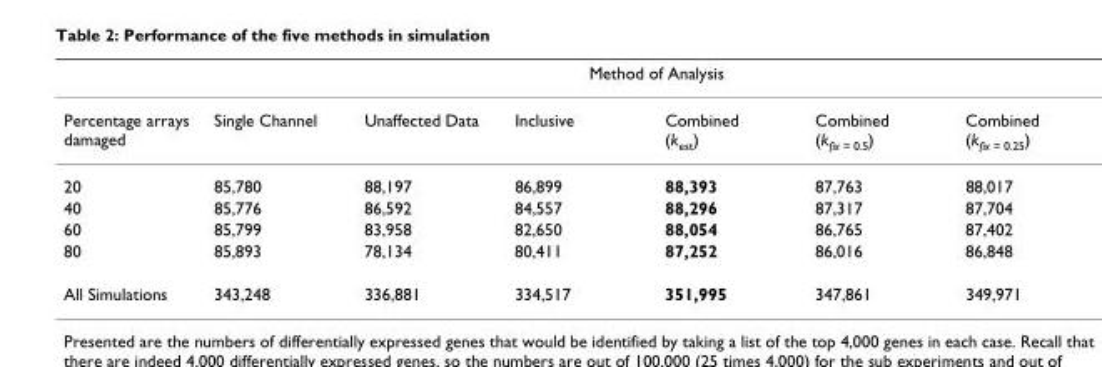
<table><thead><tr><td rowspan="2">Percentage arrays damaged</td><td colspan="6">Method of Analysis</td></tr><tr><td>Single Channel</td><td>Unaffected Data</td><td>Inclusive</td><td>Combined (k<sub>est</sub>)</td><td>Combined (k<sub>fix = 0.5</sub>)</td><td>Combined (k<sub>fix = 0.25</sub>)</td></tr></thead><tbody><tr><td>20</td><td>85,780</td><td>88,197</td><td>86,899</td><td>88,393</td><td>87,763</td><td>88,017</td></tr><tr><td>40</td><td>85,776</td><td>86,592</td><td>84,557</td><td>88,296</td><td>87,317</td><td>87,704</td></tr><tr><td>60</td><td>85,799</td><td>83,958</td><td>82,650</td><td>88,054</td><td>86,765</td><td>87,402</td></tr><tr><td>80</td><td>85,893</td><td>78,134</td><td>80,411</td><td>87,252</td><td>86,016</td><td>86,848</td></tr><tr><td>All Simulations</td><td>343,248</td><td>336,881</td><td>334,517</td><td>351,995</td><td>347,861</td><td>349,971</td></tr></tbody></table>